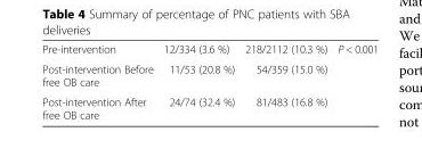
<table><tbody><tr><td>Pre-intervention</td><td>12/334 (3.6 %)</td><td>218/2112 (10.3 %)</td><td rowspan="3">P &lt; 0.001</td></tr><tr><td>Post-intervention Before free OB care</td><td>11/53 (20.8 %)</td><td>54/359 (15.0 %)</td></tr><tr><td>Post-intervention After free OB care</td><td>24/74 (32.4 %)</td><td>81/483 (16.8 %)</td></tr></tbody></table>